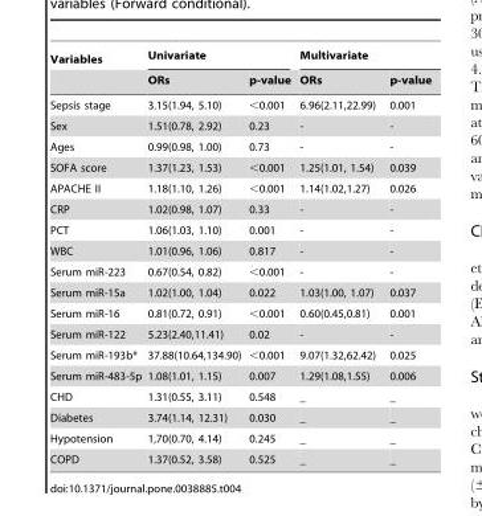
<table><thead><tr><td rowspan="2">Variables</td><td colspan="2">Univariate</td><td colspan="2">Multivariate</td></tr><tr><td>ORs</td><td>p-value</td><td>ORs</td><td>p-value</td></tr></thead><tbody><tr><td>Sepsis stage</td><td>3.15(1.94, 5.10)</td><td>&lt;0.001</td><td>6.96(2.11,22.99)</td><td>0.001</td></tr><tr><td>Sex</td><td>1.51(0.78, 2.92)</td><td>0.23</td><td>-</td><td>-</td></tr><tr><td>Ages</td><td>0.99(0.98, 1.00)</td><td>0.73</td><td>-</td><td>-</td></tr><tr><td>SOFA score</td><td>1.37(1.23, 1.53)</td><td>&lt;0.001</td><td>1.25(1.01, 1.54)</td><td>0.039</td></tr><tr><td>APACHE II</td><td>1.18(1.10, 1.26)</td><td>&lt;0.001</td><td>1.14(1.02,1.27)</td><td>0.026</td></tr><tr><td>CRP</td><td>1.02(0.98, 1.07)</td><td>0.33</td><td>-</td><td>-</td></tr><tr><td>PCT</td><td>1.06(1.03, 1.10)</td><td>0.001</td><td>-</td><td>-</td></tr><tr><td>WBC</td><td>1.01(0.96, 1.06)</td><td>0.817</td><td>-</td><td>-</td></tr><tr><td>Serum miR-223</td><td>0.67(0.54, 0.82)</td><td>&lt;0.001</td><td>-</td><td>-</td></tr><tr><td>Serum miR-15a</td><td>1.02(1.00, 1.04)</td><td>0.022</td><td>1.03(1.00, 1.07)</td><td>0.037</td></tr><tr><td>Serum miR-16</td><td>0.81(0.72, 0.91)</td><td>&lt;0.001</td><td>0.60(0.45,0.81)</td><td>0.001</td></tr><tr><td>Serum miR-122</td><td>5.23(2.40,11.41)</td><td>0.02</td><td>-</td><td>-</td></tr><tr><td>Serum miR-193b*</td><td>37.88(10.64,134.90)</td><td>&lt;0.001</td><td>9.07(1.32,62.42)</td><td>0.025</td></tr><tr><td>Serum miR-483-5p</td><td>1.08(1.01, 1.15)</td><td>0.007</td><td>1.29(1.08,1.55)</td><td>0.006</td></tr><tr><td>CHD</td><td>1.31(0.55, 3.11)</td><td>0.548</td><td>_</td><td>_</td></tr><tr><td>Diabetes</td><td>3.74(1.14, 12.31)</td><td>0.030</td><td>_</td><td>_</td></tr><tr><td>Hypotension</td><td>1,70(0.70, 4.14)</td><td>0.245</td><td>_</td><td>_</td></tr><tr><td>COPD</td><td>1.37(0.52, 3.58)</td><td>0.525</td><td>_</td><td>_</td></tr></tbody></table>